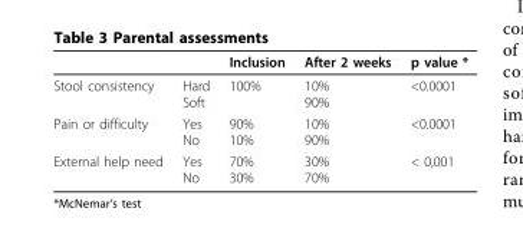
<table><thead><tr><td></td><td></td><td>Inclusion</td><td>After 2 weeks</td><td>p value *</td></tr></thead><tbody><tr><td>Stool consistency</td><td>Hard Soft</td><td>100%</td><td>10% 90%</td><td>&lt;0.0001</td></tr><tr><td>Pain or difficulty</td><td>Yes No</td><td>90% 10%</td><td>10% 90%</td><td>&lt;0.0001</td></tr><tr><td>External help need</td><td>Yes No</td><td>70% 30%</td><td>30% 70%</td><td>&lt; 0,001</td></tr></tbody></table>